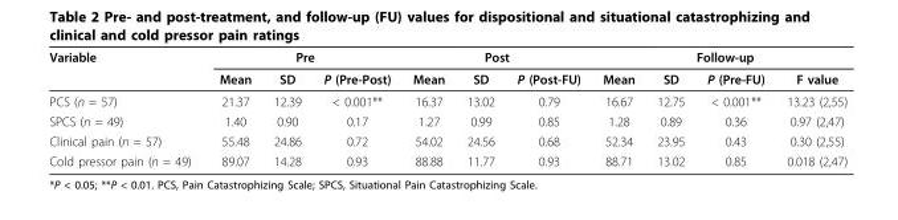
<table><thead><tr><td rowspan="2">Variable</td><td colspan="3">Pre</td><td colspan="3">Post</td><td colspan="4">Follow-up</td></tr><tr><td>Mean</td><td>SD</td><td>P (Pre-Post)</td><td>Mean</td><td>SD</td><td>P (Post-FU)</td><td>Mean</td><td>SD</td><td>P (Pre-FU)</td><td>F value</td></tr></thead><tbody><tr><td>PCS (n = 57)</td><td>21.37</td><td>12.39</td><td>&lt; 0.001**</td><td>16.37</td><td>13.02</td><td>0.79</td><td>16.67</td><td>12.75</td><td>&lt; 0.001**</td><td>13.23 (2,55)</td></tr><tr><td>SPCS (n = 49)</td><td>1.40</td><td>0.90</td><td>0.17</td><td>1.27</td><td>0.99</td><td>0.85</td><td>1.28</td><td>0.89</td><td>0.36</td><td>0.97 (2,47)</td></tr><tr><td>Clinical pain (n = 57)</td><td>55.48</td><td>24.86</td><td>0.72</td><td>54.02</td><td>24.56</td><td>0.68</td><td>52.34</td><td>23.95</td><td>0.43</td><td>0.30 (2,55)</td></tr><tr><td>Cold pressor pain (n = 49)</td><td>89.07</td><td>14.28</td><td>0.93</td><td>88.88</td><td>11.77</td><td>0.93</td><td>88.71</td><td>13.02</td><td>0.85</td><td>0.018 (2,47)</td></tr></tbody></table>